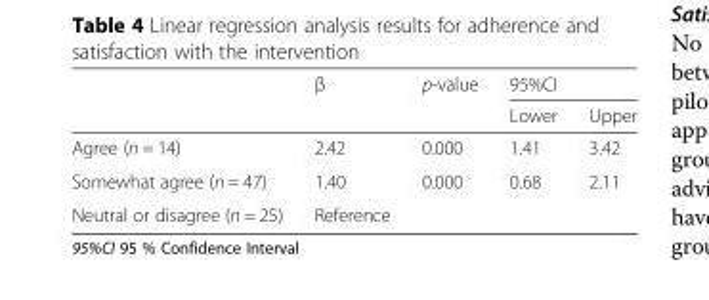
<table><thead><tr><td rowspan="2"></td><td rowspan="2">β</td><td rowspan="2">p-value</td><td colspan="2">95%CI</td></tr><tr><td>Lower</td><td>Upper</td></tr></thead><tbody><tr><td>Agree (n = 14)</td><td>2.42</td><td>0.000</td><td>1.41</td><td>3.42</td></tr><tr><td>Somewhat agree (n = 47)</td><td>1.40</td><td>0.000</td><td>0.68</td><td>2.11</td></tr><tr><td>Neutral or disagree (n = 25)</td><td>Reference</td><td></td><td></td><td></td></tr></tbody></table>